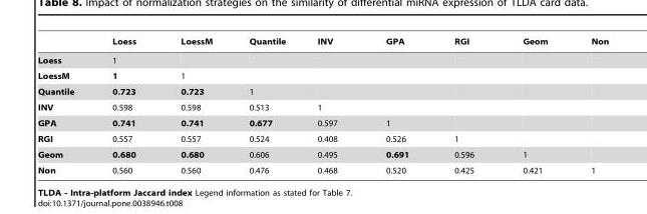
<table><thead><tr><td></td><td>Loess</td><td>LoessM</td><td>Quantile</td><td>INV</td><td>GPA</td><td>RGI</td><td>Geom</td><td>Non</td></tr></thead><tbody><tr><td>Loess</td><td>1</td><td></td><td></td><td></td><td></td><td></td><td></td><td></td></tr><tr><td>LoessM</td><td>1</td><td>1</td><td></td><td></td><td></td><td></td><td></td><td></td></tr><tr><td>Quantile</td><td>0.723</td><td>0.723</td><td>1</td><td></td><td></td><td></td><td></td><td></td></tr><tr><td>INV</td><td>0.598</td><td>0.598</td><td>0.513</td><td>1</td><td></td><td></td><td></td><td></td></tr><tr><td>GPA</td><td>0.741</td><td>0.741</td><td>0.677</td><td>0.597</td><td>1</td><td></td><td></td><td></td></tr><tr><td>RGI</td><td>0.557</td><td>0.557</td><td>0.524</td><td>0.408</td><td>0.526</td><td>1</td><td></td><td></td></tr><tr><td>Geom</td><td>0.680</td><td>0.680</td><td>0.606</td><td>0.495</td><td>0.691</td><td>0.596</td><td>1</td><td></td></tr><tr><td>Non</td><td>0.560</td><td>0.560</td><td>0.476</td><td>0.468</td><td>0.520</td><td>0.425</td><td>0.421</td><td>1</td></tr></tbody></table>